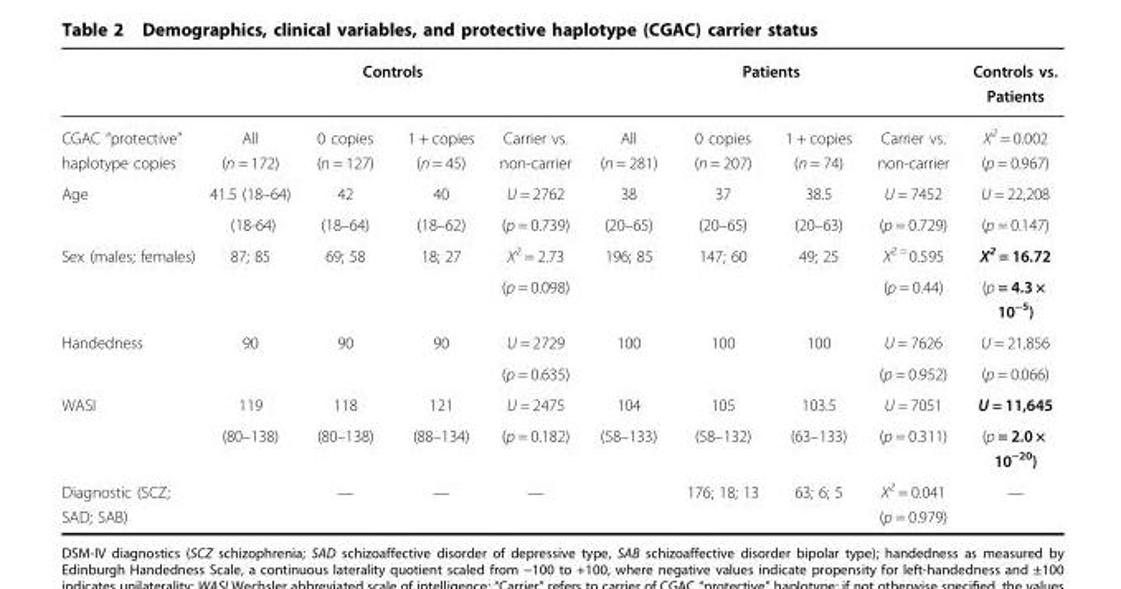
<table><thead><tr><td rowspan="2">CGAC “protective” haplotype copies</td><td colspan="4">Controls</td><td colspan="4">Patients</td><td rowspan="2">Controls vs. Patients X<sup>2</sup> = 0.002 (p = 0.967)</td></tr><tr><td>All (n = 172)</td><td>0 copies (n = 127)</td><td>1 + copies (n = 45)</td><td>Carrier vs. non-carrier</td><td>All (n = 281)</td><td>0 copies (n = 207)</td><td>1 + copies (n = 74)</td><td>Carrier vs. non-carrier</td></tr></thead><tbody><tr><td rowspan="2">Age</td><td>41.5 (18–64)</td><td>42</td><td>40</td><td>U = 2762</td><td>38</td><td>37</td><td>38.5</td><td>U = 7452</td><td>U = 22,208</td></tr><tr><td>(18-64)</td><td>(18–64)</td><td>(18–62)</td><td>(p = 0.739)</td><td>(20–65)</td><td>(20–65)</td><td>(20–63)</td><td>(p = 0.729)</td><td>(p = 0.147)</td></tr><tr><td rowspan="2">Sex (males; females)</td><td>87; 85</td><td>69; 58</td><td>18; 27</td><td>X<sup>2</sup> = 2.73</td><td>196; 85</td><td>147; 60</td><td>49; 25</td><td>X<sup>2 =</sup>0.595</td><td>X<sup>2</sup> = 16.72</td></tr><tr><td></td><td></td><td></td><td>(p = 0.098)</td><td></td><td></td><td></td><td>(p = 0.44)</td><td>(p = 4.3 × 10<sup>−5</sup>)</td></tr><tr><td rowspan="2">Handedness</td><td>90</td><td>90</td><td>90</td><td>U = 2729</td><td>100</td><td>100</td><td>100</td><td>U = 7626</td><td>U = 21,856</td></tr><tr><td></td><td></td><td></td><td>(p = 0.635)</td><td></td><td></td><td></td><td>(p = 0.952)</td><td>(p = 0.066)</td></tr><tr><td rowspan="2">WASI</td><td>119</td><td>118</td><td>121</td><td>U = 2475</td><td>104</td><td>105</td><td>103.5</td><td>U = 7051</td><td>U = 11,645</td></tr><tr><td>(80–138)</td><td>(80–138)</td><td>(88–134)</td><td>(p = 0.182)</td><td>(58–133)</td><td>(58–132)</td><td>(63–133)</td><td>(p = 0.311)</td><td>(p = 2.0 × 10<sup>−20</sup>)</td></tr><tr><td>Diagnostic (SCZ; SAD; SAB)</td><td></td><td>—</td><td>—</td><td>—</td><td></td><td>176; 18; 13</td><td>63; 6; 5</td><td>X<sup>2</sup> = 0.041 (p = 0.979)</td><td>—</td></tr></tbody></table>